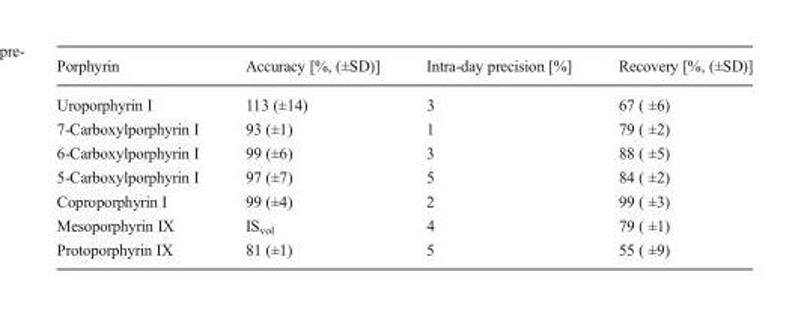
<table><thead><tr><td>Porphyrin</td><td>Accuracy [%, (±SD)]</td><td>Intra-day precision [%]</td><td>Recovery [%, (±SD)]</td></tr></thead><tbody><tr><td>Uroporphyrin I</td><td>113 (±14)</td><td>3</td><td>67 ( ±6)</td></tr><tr><td>7-Carboxylporphyrin I</td><td>93 (±1)</td><td>1</td><td>79 ( ±2)</td></tr><tr><td>6-Carboxylporphyrin I</td><td>99 (±6)</td><td>3</td><td>88 ( ±5)</td></tr><tr><td>5-Carboxylporphyrin I</td><td>97 (±7)</td><td>5</td><td>84 ( ±2)</td></tr><tr><td>Coproporphyrin I</td><td>99 (±4)</td><td>2</td><td>99 ( ±3)</td></tr><tr><td>Mesoporphyrin IX</td><td>IS<sub>vol</sub></td><td>4</td><td>79 ( ±1)</td></tr><tr><td>Protoporphyrin IX</td><td>81 (±1)</td><td>5</td><td>55 ( ±9)</td></tr></tbody></table>